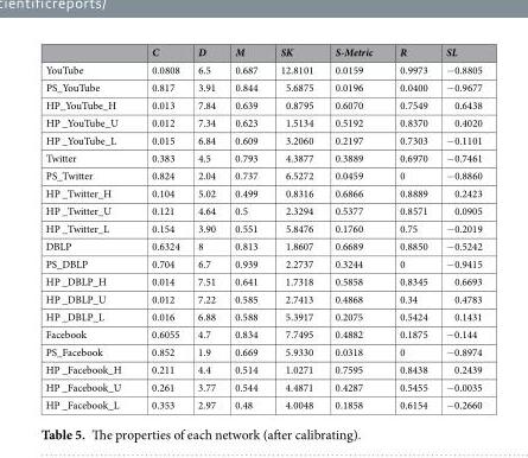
<table><thead><tr><td></td><td>C</td><td>D</td><td>M</td><td>SK</td><td>S-Metric</td><td>R</td><td>SL</td></tr></thead><tbody><tr><td>YouTube</td><td>0.0808</td><td>6.5</td><td>0.687</td><td>12.8101</td><td>0.0159</td><td>0.9973</td><td>−0.8805</td></tr><tr><td>PS_YouTube</td><td>0.817</td><td>3.91</td><td>0.844</td><td>5.6875</td><td>0.0196</td><td>0.0400</td><td>−0.9677</td></tr><tr><td>HP_YouTube_H</td><td>0.013</td><td>7.84</td><td>0.639</td><td>0.8795</td><td>0.6070</td><td>0.7549</td><td>0.6438</td></tr><tr><td>HP _YouTube_U</td><td>0.012</td><td>7.34</td><td>0.623</td><td>1.5134</td><td>0.5192</td><td>0.8370</td><td>0.4020</td></tr><tr><td>HP _YouTube_L</td><td>0.015</td><td>6.84</td><td>0.609</td><td>3.2060</td><td>0.2197</td><td>0.7303</td><td>−0.1101</td></tr><tr><td>Twitter</td><td>0.383</td><td>4.5</td><td>0.793</td><td>4.3877</td><td>0.3889</td><td>0.6970</td><td>−0.7461</td></tr><tr><td>PS_Twitter</td><td>0.824</td><td>2.04</td><td>0.737</td><td>6.5272</td><td>0.0459</td><td>0</td><td>−0.8860</td></tr><tr><td>HP _Twitter_H</td><td>0.104</td><td>5.02</td><td>0.499</td><td>0.8316</td><td>0.6866</td><td>0.8889</td><td>0.2423</td></tr><tr><td>HP _Twitter_U</td><td>0.121</td><td>4.64</td><td>0.5</td><td>2.3294</td><td>0.5377</td><td>0.8571</td><td>0.0905</td></tr><tr><td>HP _Twitter_L</td><td>0.154</td><td>3.90</td><td>0.551</td><td>5.8476</td><td>0.1760</td><td>0.75</td><td>−0.2019</td></tr><tr><td>DBLP</td><td>0.6324</td><td>8</td><td>0.813</td><td>1.8607</td><td>0.6689</td><td>0.8850</td><td>−0.5242</td></tr><tr><td>PS_DBLP</td><td>0.704</td><td>6.7</td><td>0.939</td><td>2.2737</td><td>0.3244</td><td>0</td><td>−0.9415</td></tr><tr><td>HP _DBLP_H</td><td>0.014</td><td>7.51</td><td>0.641</td><td>1.7318</td><td>0.5858</td><td>0.8345</td><td>0.6693</td></tr><tr><td>HP _DBLP_U</td><td>0.012</td><td>7.22</td><td>0.585</td><td>2.7413</td><td>0.4868</td><td>0.34</td><td>0.4783</td></tr><tr><td>HP _DBLP_L</td><td>0.016</td><td>6.88</td><td>0.588</td><td>5.3917</td><td>0.2075</td><td>0.5424</td><td>0.1431</td></tr><tr><td>Facebook</td><td>0.6055</td><td>4.7</td><td>0.834</td><td>7.7495</td><td>0.4882</td><td>0.1875</td><td>−0.144</td></tr><tr><td>PS_Facebook</td><td>0.852</td><td>1.9</td><td>0.669</td><td>5.9330</td><td>0.0318</td><td>0</td><td>−0.8974</td></tr><tr><td>HP _Facebook_H</td><td>0.211</td><td>4.4</td><td>0.514</td><td>1.0271</td><td>0.7595</td><td>0.8438</td><td>0.2439</td></tr><tr><td>HP _Facebook_U</td><td>0.261</td><td>3.77</td><td>0.544</td><td>4.4871</td><td>0.4287</td><td>0.5455</td><td>−0.0035</td></tr><tr><td>HP _Facebook_L</td><td>0.353</td><td>2.97</td><td>0.48</td><td>4.0048</td><td>0.1858</td><td>0.6154</td><td>−0.2660</td></tr></tbody></table>